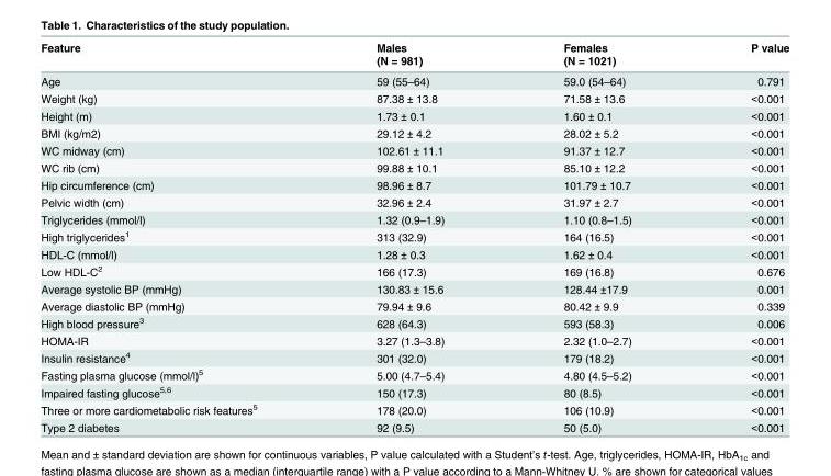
<table><thead><tr><td rowspan="2">Feature</td><td rowspan="2">Males (N = 981)</td><td rowspan="2">Females (N = 1021)</td><td rowspan="2">P value</td></tr><tr></tr></thead><tbody><tr><td>Age</td><td>59 (55–64)</td><td>59.0 (54–64)</td><td>0.791</td></tr><tr><td>Weight (kg)</td><td>87.38 ± 13.8</td><td>71.58 ± 13.6</td><td>&lt;0.001</td></tr><tr><td>Height (m)</td><td>1.73 ± 0.1</td><td>1.60 ± 0.1</td><td>&lt;0.001</td></tr><tr><td>BMI (kg/m2)</td><td>29.12 ± 4.2</td><td>28.02 ± 5.2</td><td>&lt;0.001</td></tr><tr><td>WC midway (cm)</td><td>102.61 ± 11.1</td><td>91.37 ± 12.7</td><td>&lt;0.001</td></tr><tr><td>WC rib (cm)</td><td>99.88 ± 10.1</td><td>85.10 ± 12.2</td><td>&lt;0.001</td></tr><tr><td>Hip circumference (cm)</td><td>98.96 ± 8.7</td><td>101.79 ± 10.7</td><td>&lt;0.001</td></tr><tr><td>Pelvic width (cm)</td><td>32.96 ± 2.4</td><td>31.97 ± 2.7</td><td>&lt;0.001</td></tr><tr><td>Triglycerides (mmol/l)</td><td>1.32 (0.9–1.9)</td><td>1.10 (0.8–1.5)</td><td>&lt;0.001</td></tr><tr><td>High triglycerides<sup>1</sup></td><td>313 (32.9)</td><td>164 (16.5)</td><td>&lt;0.001</td></tr><tr><td>HDL-C (mmol/l)</td><td>1.28 ± 0.3</td><td>1.62 ± 0.4</td><td>&lt;0.001</td></tr><tr><td>Low HDL-C<sup>2</sup></td><td>166 (17.3)</td><td>169 (16.8)</td><td>0.676</td></tr><tr><td>Average systolic BP (mmHg)</td><td>130.83 ± 15.6</td><td>128.44 ±17.9</td><td>0.001</td></tr><tr><td>Average diastolic BP (mmHg)</td><td>79.94 ± 9.6</td><td>80.42 ± 9.9</td><td>0.339</td></tr><tr><td>High blood pressure<sup>3</sup></td><td>628 (64.3)</td><td>593 (58.3)</td><td>0.006</td></tr><tr><td>HOMA-IR</td><td>3.27 (1.3–3.8)</td><td>2.32 (1.0–2.7)</td><td>&lt;0.001</td></tr><tr><td>Insulin resistance<sup>4</sup></td><td>301 (32.0)</td><td>179 (18.2)</td><td>&lt;0.001</td></tr><tr><td>Fasting plasma glucose (mmol/l)<sup>5</sup></td><td>5.00 (4.7–5.4)</td><td>4.80 (4.5–5.2)</td><td>&lt;0.001</td></tr><tr><td>Impaired fasting glucose<sup>5,6</sup></td><td>150 (17.3)</td><td>80 (8.5)</td><td>&lt;0.001</td></tr><tr><td>Three or more cardiometabolic risk features<sup>5</sup></td><td>178 (20.0)</td><td>106 (10.9)</td><td>&lt;0.001</td></tr><tr><td>Type 2 diabetes</td><td>92 (9.5)</td><td>50 (5.0)</td><td>&lt;0.001</td></tr></tbody></table>